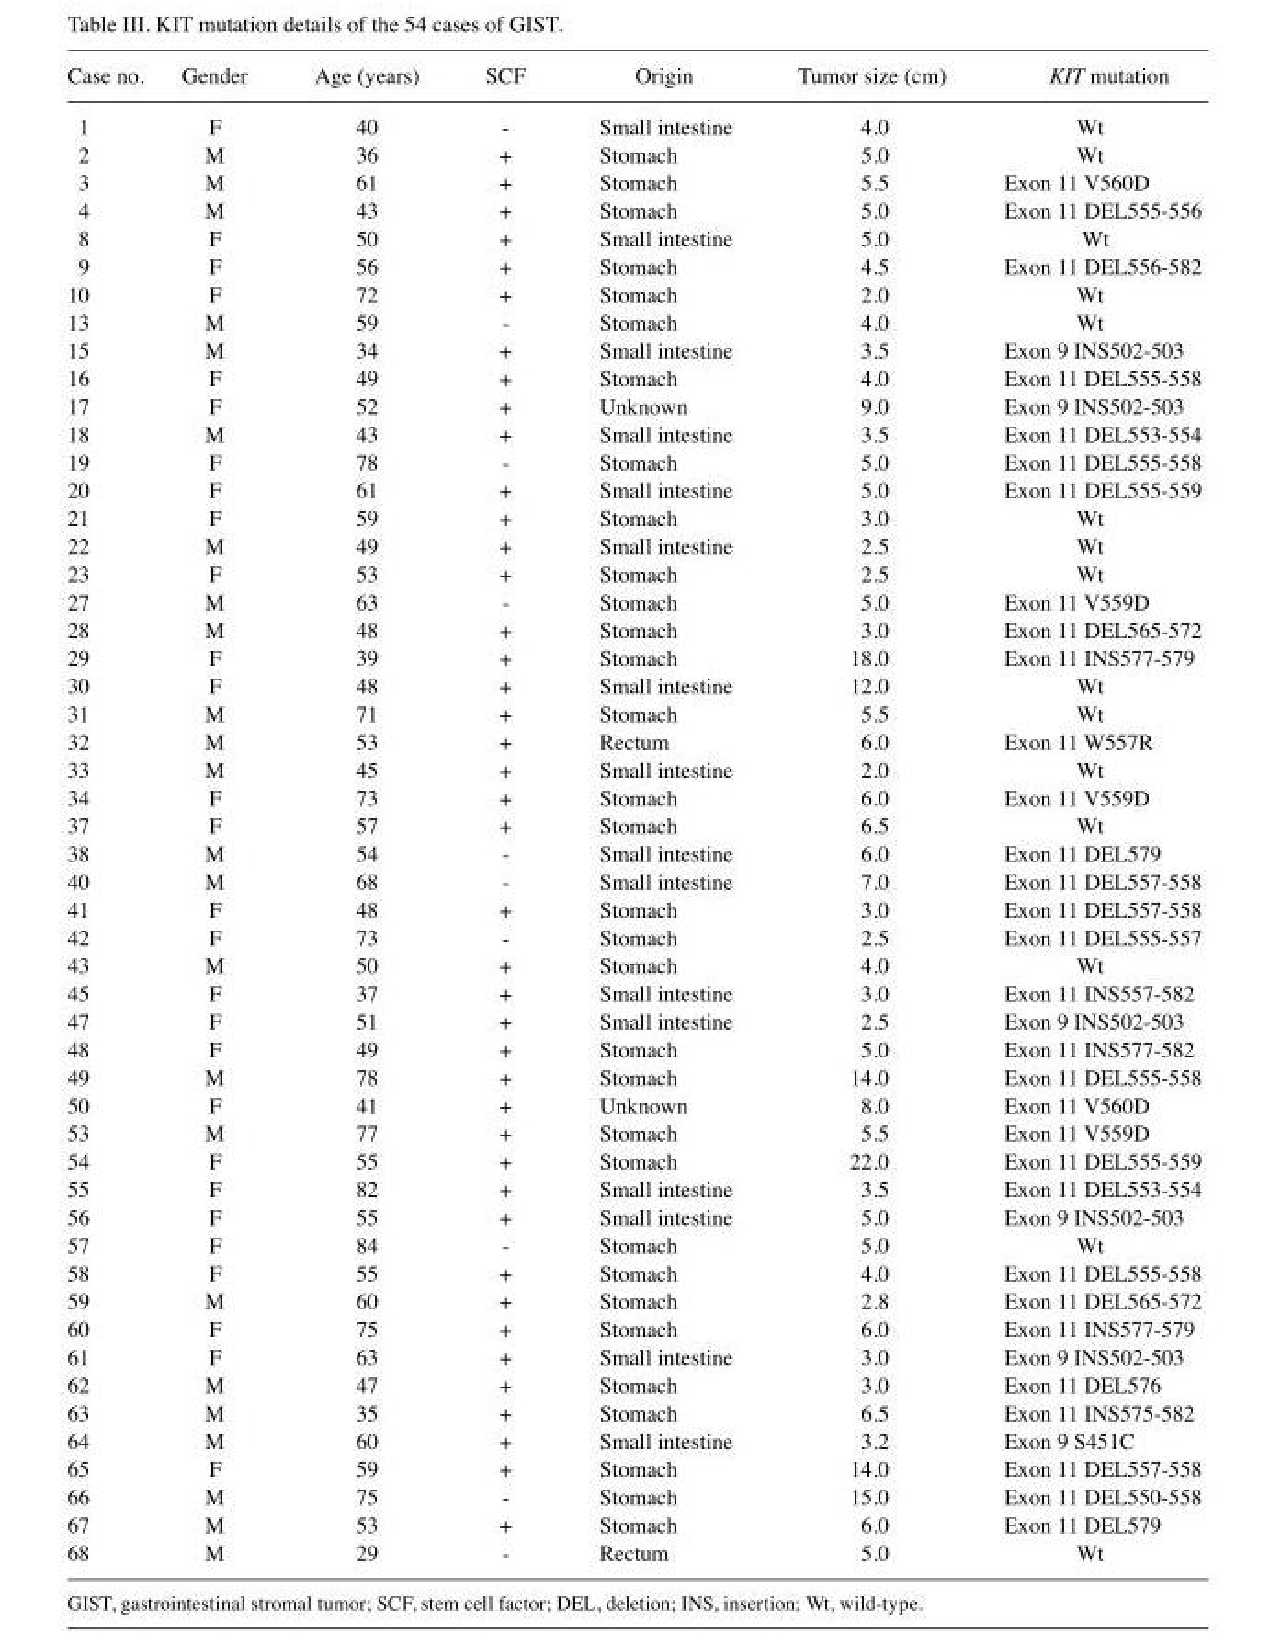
<table><thead><tr><td>Case no.</td><td>Gender</td><td>Age (years)</td><td>SCF</td><td>Origin</td><td>Tumor size (cm)</td><td>KIT mutation</td></tr></thead><tbody><tr><td>1</td><td>F</td><td>40</td><td>-</td><td>Small intestine</td><td>4.0</td><td>Wt</td></tr><tr><td>2</td><td>M</td><td>36</td><td>+</td><td>Stomach</td><td>5.0</td><td>Wt</td></tr><tr><td>3</td><td>M</td><td>61</td><td>+</td><td>Stomach</td><td>5.5</td><td>Exon 11 V560D</td></tr><tr><td>4</td><td>M</td><td>43</td><td>+</td><td>Stomach</td><td>5.0</td><td>Exon 11 DEL555-556</td></tr><tr><td>8</td><td>F</td><td>50</td><td>+</td><td>Small intestine</td><td>5.0</td><td>Wt</td></tr><tr><td>9</td><td>F</td><td>56</td><td>+</td><td>Stomach</td><td>4.5</td><td>Exon 11 DEL556-582</td></tr><tr><td>10</td><td>F</td><td>72</td><td>+</td><td>Stomach</td><td>2.0</td><td>Wt</td></tr><tr><td>13</td><td>M</td><td>59</td><td>-</td><td>Stomach</td><td>4.0</td><td>Wt</td></tr><tr><td>15</td><td>M</td><td>34</td><td>+</td><td>Small intestine</td><td>3.5</td><td>Exon 9 INS502-503</td></tr><tr><td>16</td><td>F</td><td>49</td><td>+</td><td>Stomach</td><td>4.0</td><td>Exon 11 DEL555-558</td></tr><tr><td>17</td><td>F</td><td>52</td><td>+</td><td>Unknown</td><td>9.0</td><td>Exon 9 INS502-503</td></tr><tr><td>18</td><td>M</td><td>43</td><td>+</td><td>Small intestine</td><td>3.5</td><td>Exon 11 DEL553-554</td></tr><tr><td>19</td><td>F</td><td>78</td><td>-</td><td>Stomach</td><td>5.0</td><td>Exon 11 DEL555-558</td></tr><tr><td>20</td><td>F</td><td>61</td><td>+</td><td>Small intestine</td><td>5.0</td><td>Exon 11 DEL555-559</td></tr><tr><td>21</td><td>F</td><td>59</td><td>+</td><td>Stomach</td><td>3.0</td><td>Wt</td></tr><tr><td>22</td><td>M</td><td>49</td><td>+</td><td>Small intestine</td><td>2.5</td><td>Wt</td></tr><tr><td>23</td><td>F</td><td>53</td><td>+</td><td>Stomach</td><td>2.5</td><td>Wt</td></tr><tr><td>27</td><td>M</td><td>63</td><td>-</td><td>Stomach</td><td>5.0</td><td>Exon 11 V559D</td></tr><tr><td>28</td><td>M</td><td>48</td><td>+</td><td>Stomach</td><td>3.0</td><td>Exon 11 DEL565-572</td></tr><tr><td>29</td><td>F</td><td>39</td><td>+</td><td>Stomach</td><td>18.0</td><td>Exon 11 INS577-579</td></tr><tr><td>30</td><td>F</td><td>48</td><td>+</td><td>Small intestine</td><td>12.0</td><td>Wt</td></tr><tr><td>31</td><td>M</td><td>71</td><td>+</td><td>Stomach</td><td>5.5</td><td>Wt</td></tr><tr><td>32</td><td>M</td><td>53</td><td>+</td><td>Rectum</td><td>6.0</td><td>Exon 11 W557R</td></tr><tr><td>33</td><td>M</td><td>45</td><td>+</td><td>Small intestine</td><td>2.0</td><td>Wt</td></tr><tr><td>34</td><td>F</td><td>73</td><td>+</td><td>Stomach</td><td>6.0</td><td>Exon 11 V559D</td></tr><tr><td>37</td><td>F</td><td>57</td><td>+</td><td>Stomach</td><td>6.5</td><td>Wt</td></tr><tr><td>38</td><td>M</td><td>54</td><td>-</td><td>Small intestine</td><td>6.0</td><td>Exon 11 DEL579</td></tr><tr><td>40</td><td>M</td><td>68</td><td>-</td><td>Small intestine</td><td>7.0</td><td>Exon 11 DEL557-558</td></tr><tr><td>41</td><td>F</td><td>48</td><td>+</td><td>Stomach</td><td>3.0</td><td>Exon 11 DEL557-558</td></tr><tr><td>42</td><td>F</td><td>73</td><td>-</td><td>Stomach</td><td>2.5</td><td>Exon 11 DEL555-557</td></tr><tr><td>43</td><td>M</td><td>50</td><td>+</td><td>Stomach</td><td>4.0</td><td>Wt</td></tr><tr><td>45</td><td>F</td><td>37</td><td>+</td><td>Small intestine</td><td>3.0</td><td>Exon 11 INS557-582</td></tr><tr><td>47</td><td>F</td><td>51</td><td>+</td><td>Small intestine</td><td>2.5</td><td>Exon 9 INS502-503</td></tr><tr><td>48</td><td>F</td><td>49</td><td>+</td><td>Stomach</td><td>5.0</td><td>Exon 11 INS577-582</td></tr><tr><td>49</td><td>M</td><td>78</td><td>+</td><td>Stomach</td><td>14.0</td><td>Exon 11 DEL555-558</td></tr><tr><td>50</td><td>F</td><td>41</td><td>+</td><td>Unknown</td><td>8.0</td><td>Exon 11 V560D</td></tr><tr><td>53</td><td>M</td><td>77</td><td>+</td><td>Stomach</td><td>5.5</td><td>Exon 11 V559D</td></tr><tr><td>54</td><td>F</td><td>55</td><td>+</td><td>Stomach</td><td>22.0</td><td>Exon 11 DEL555-559</td></tr><tr><td>55</td><td>F</td><td>82</td><td>+</td><td>Small intestine</td><td>3.5</td><td>Exon 11 DEL553-554</td></tr><tr><td>56</td><td>F</td><td>55</td><td>+</td><td>Small intestine</td><td>5.0</td><td>Exon 9 INS502-503</td></tr><tr><td>57</td><td>F</td><td>84</td><td>-</td><td>Stomach</td><td>5.0</td><td>Wt</td></tr><tr><td>58</td><td>F</td><td>55</td><td>+</td><td>Stomach</td><td>4.0</td><td>Exon 11 DEL555-558</td></tr><tr><td>59</td><td>M</td><td>60</td><td>+</td><td>Stomach</td><td>2.8</td><td>Exon 11 DEL565-572</td></tr><tr><td>60</td><td>F</td><td>75</td><td>+</td><td>Stomach</td><td>6.0</td><td>Exon 11 INS577-579</td></tr><tr><td>61</td><td>F</td><td>63</td><td>+</td><td>Small intestine</td><td>3.0</td><td>Exon 9 INS502-503</td></tr><tr><td>62</td><td>M</td><td>47</td><td>+</td><td>Stomach</td><td>3.0</td><td>Exon 11 DEL576</td></tr><tr><td>63</td><td>M</td><td>35</td><td>+</td><td>Stomach</td><td>6.5</td><td>Exon 11 INS575-582</td></tr><tr><td>64</td><td>M</td><td>60</td><td>+</td><td>Small intestine</td><td>3.2</td><td>Exon 9 S451C</td></tr><tr><td>65</td><td>F</td><td>59</td><td>+</td><td>Stomach</td><td>14.0</td><td>Exon 11 DEL557-558</td></tr><tr><td>66</td><td>M</td><td>75</td><td>-</td><td>Stomach</td><td>15.0</td><td>Exon 11 DEL550-558</td></tr><tr><td>67</td><td>M</td><td>53</td><td>+</td><td>Stomach</td><td>6.0</td><td>Exon 11 DEL579</td></tr><tr><td>68</td><td>M</td><td>29</td><td>-</td><td>Rectum</td><td>5.0</td><td>Wt</td></tr></tbody></table>